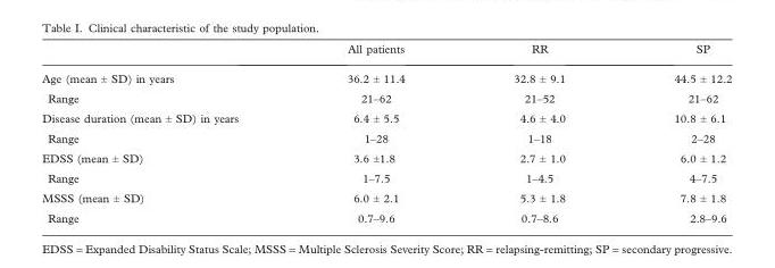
<table><thead><tr><td></td><td>All patients</td><td>RR</td><td>SP</td></tr></thead><tbody><tr><td>Age (mean ± SD) in years</td><td>36.2 ± 11.4</td><td>32.8 ± 9.1</td><td>44.5 ± 12.2</td></tr><tr><td>Range</td><td>21–62</td><td>21–52</td><td>21–62</td></tr><tr><td>Disease duration (mean ± SD) in years</td><td>6.4 ± 5.5</td><td>4.6 ± 4.0</td><td>10.8 ± 6.1</td></tr><tr><td>Range</td><td>1–28</td><td>1–18</td><td>2–28</td></tr><tr><td>EDSS (mean ± SD)</td><td>3.6 ±1.8</td><td>2.7 ± 1.0</td><td>6.0 ± 1.2</td></tr><tr><td>Range</td><td>1–7.5</td><td>1–4.5</td><td>4–7.5</td></tr><tr><td>MSSS (mean ± SD)</td><td>6.0 ± 2.1</td><td>5.3 ± 1.8</td><td>7.8 ± 1.8</td></tr><tr><td>Range</td><td>0.7–9.6</td><td>0.7–8.6</td><td>2.8–9.6</td></tr></tbody></table>